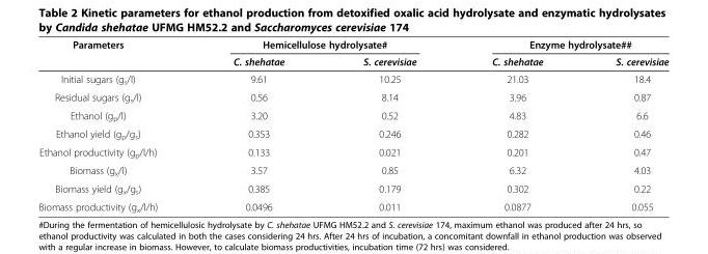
<table><thead><tr><td rowspan="2">Parameters</td><td colspan="2">Hemicellulose hydrolysate#</td><td colspan="2">Enzyme hydrolysate##</td></tr><tr><td>C. shehatae</td><td>S. cerevisiae</td><td>C. shehatae</td><td>S. cerevisiae</td></tr></thead><tbody><tr><td>Initial sugars (g<sub>s</sub>/l)</td><td>9.61</td><td>10.25</td><td>21.03</td><td>18.4</td></tr><tr><td>Residual sugars (g<sub>s</sub>/l)</td><td>0.56</td><td>8.14</td><td>3.96</td><td>0.87</td></tr><tr><td>Ethanol (g<sub>p</sub>/l)</td><td>3.20</td><td>0.52</td><td>4.83</td><td>6.6</td></tr><tr><td>Ethanol yield (g<sub>p</sub>/g<sub>s</sub>)</td><td>0.353</td><td>0.246</td><td>0.282</td><td>0.46</td></tr><tr><td>Ethanol productivity (g<sub>p</sub>/l/h)</td><td>0.133</td><td>0.021</td><td>0.201</td><td>0.47</td></tr><tr><td>Biomass (g<sub>x</sub>/l)</td><td>3.57</td><td>0.85</td><td>6.32</td><td>4.03</td></tr><tr><td>Biomass yield (g<sub>x</sub>/g<sub>s</sub>)</td><td>0.385</td><td>0.179</td><td>0.302</td><td>0.22</td></tr><tr><td>Biomass productivity (g<sub>x</sub>/l/h)</td><td>0.0496</td><td>0.011</td><td>0.0877</td><td>0.055</td></tr></tbody></table>